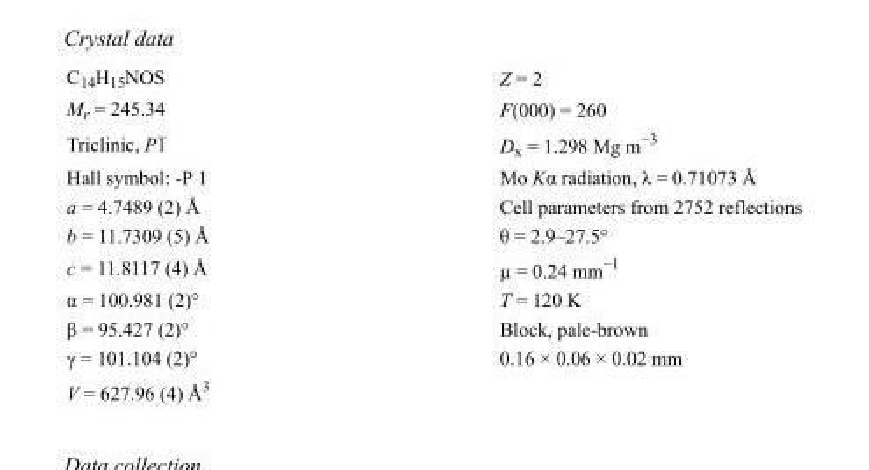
<table><tbody><tr><td>C<sub>14</sub>H<sub>15</sub>NOS</td><td>Z = 2</td></tr><tr><td>M<sub>r</sub> = 245.34</td><td>F(000) = 260</td></tr><tr><td>Triclinic, P1</td><td>D<sub>x</sub> = 1.298 Mg m<sup>−3</sup></td></tr><tr><td>Hall symbol: -P 1</td><td>Mo Kα radiation, λ = 0.71073 Å</td></tr><tr><td>a = 4.7489 (2) Å</td><td>Cell parameters from 2752 reflections</td></tr><tr><td>b = 11.7309 (5) Å</td><td>θ = 2.9–27.5°</td></tr><tr><td>c = 11.8117 (4) Å</td><td>µ = 0.24 mm<sup>−1</sup></td></tr><tr><td>α = 100.981 (2)°</td><td>T = 120 K</td></tr><tr><td>β = 95.427 (2)°</td><td>Block, pale-brown</td></tr><tr><td>γ = 101.104 (2)°</td><td>0.16 × 0.06 × 0.02 mm</td></tr><tr><td>V = 627.96 (4) Å<sup>3</sup></td><td></td></tr></tbody></table>